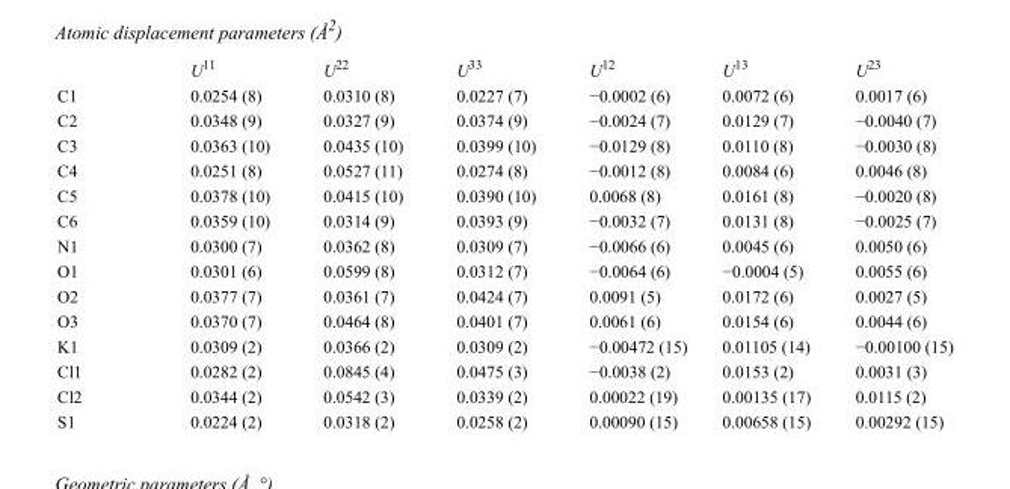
<table><thead><tr><td></td><td>U<sup>11</sup></td><td>U<sup>22</sup></td><td>U<sup>33</sup></td><td>U<sup>12</sup></td><td>U<sup>13</sup></td><td>U<sup>23</sup></td></tr></thead><tbody><tr><td>C1</td><td>0.0254 (8)</td><td>0.0310 (8)</td><td>0.0227 (7)</td><td>−0.0002 (6)</td><td>0.0072 (6)</td><td>0.0017 (6)</td></tr><tr><td>C2</td><td>0.0348 (9)</td><td>0.0327 (9)</td><td>0.0374 (9)</td><td>−0.0024 (7)</td><td>0.0129 (7)</td><td>−0.0040 (7)</td></tr><tr><td>C3</td><td>0.0363 (10)</td><td>0.0435 (10)</td><td>0.0399 (10)</td><td>−0.0129 (8)</td><td>0.0110 (8)</td><td>−0.0030 (8)</td></tr><tr><td>C4</td><td>0.0251 (8)</td><td>0.0527 (11)</td><td>0.0274 (8)</td><td>−0.0012 (8)</td><td>0.0084 (6)</td><td>0.0046 (8)</td></tr><tr><td>C5</td><td>0.0378 (10)</td><td>0.0415 (10)</td><td>0.0390 (10)</td><td>0.0068 (8)</td><td>0.0161 (8)</td><td>−0.0020 (8)</td></tr><tr><td>C6</td><td>0.0359 (10)</td><td>0.0314 (9)</td><td>0.0393 (9)</td><td>−0.0032 (7)</td><td>0.0131 (8)</td><td>−0.0025 (7)</td></tr><tr><td>N1</td><td>0.0300 (7)</td><td>0.0362 (8)</td><td>0.0309 (7)</td><td>−0.0066 (6)</td><td>0.0045 (6)</td><td>0.0050 (6)</td></tr><tr><td>O1</td><td>0.0301 (6)</td><td>0.0599 (8)</td><td>0.0312 (7)</td><td>−0.0064 (6)</td><td>−0.0004 (5)</td><td>0.0055 (6)</td></tr><tr><td>O2</td><td>0.0377 (7)</td><td>0.0361 (7)</td><td>0.0424 (7)</td><td>0.0091 (5)</td><td>0.0172 (6)</td><td>0.0027 (5)</td></tr><tr><td>O3</td><td>0.0370 (7)</td><td>0.0464 (8)</td><td>0.0401 (7)</td><td>0.0061 (6)</td><td>0.0154 (6)</td><td>0.0044 (6)</td></tr><tr><td>K1</td><td>0.0309 (2)</td><td>0.0366 (2)</td><td>0.0309 (2)</td><td>−0.00472 (15)</td><td>0.01105 (14)</td><td>−0.00100 (15)</td></tr><tr><td>Cl1</td><td>0.0282 (2)</td><td>0.0845 (4)</td><td>0.0475 (3)</td><td>−0.0038 (2)</td><td>0.0153 (2)</td><td>0.0031 (3)</td></tr><tr><td>Cl2</td><td>0.0344 (2)</td><td>0.0542 (3)</td><td>0.0339 (2)</td><td>0.00022 (19)</td><td>0.00135 (17)</td><td>0.0115 (2)</td></tr><tr><td>S1</td><td>0.0224 (2)</td><td>0.0318 (2)</td><td>0.0258 (2)</td><td>0.00090 (15)</td><td>0.00658 (15)</td><td>0.00292 (15)</td></tr></tbody></table>